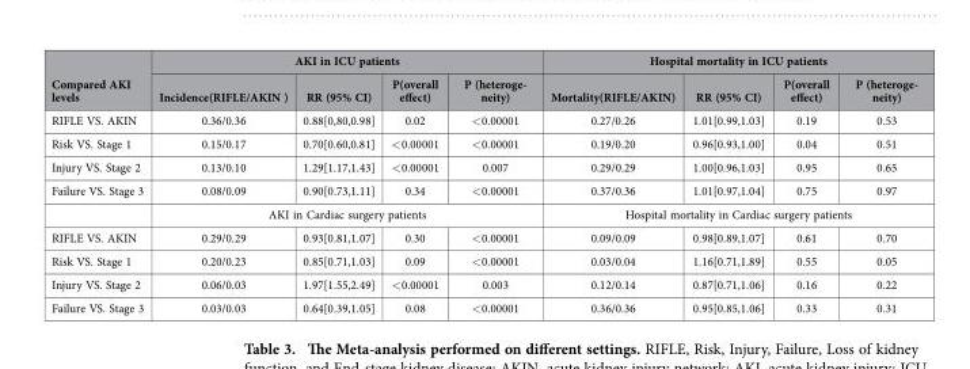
<table><thead><tr><td rowspan="2">Compared AKI levels</td><td colspan="4">AKI in ICU patients</td><td colspan="4">Hospital mortality in ICU patients</td></tr><tr><td>Incidence(RIFLE/AKIN )</td><td>RR (95% CI)</td><td>P(overall effect)</td><td>P (heteroge- neity)</td><td>Mortality(RIFLE/AKIN)</td><td>RR (95% CI)</td><td>P(overall effect)</td><td>P (heteroge- neity)</td></tr></thead><tbody><tr><td>RIFLE VS. AKIN</td><td>0.36/0.36</td><td>0.88[0,80,0.98]</td><td>0.02</td><td>&lt; 0.00001</td><td>0.27/0.26</td><td>1.01[0.99,1.03]</td><td>0.19</td><td>0.53</td></tr><tr><td>Risk VS. Stage 1</td><td>0.15/0.17</td><td>0.70[0.60,0.81]</td><td>&lt; 0.00001</td><td>&lt; 0.00001</td><td>0.19/0.20</td><td>0.96[0.93,1.00]</td><td>0.04</td><td>0.51</td></tr><tr><td>Injury VS. Stage 2</td><td>0.13/0.10</td><td>1.29[1.17,1.43]</td><td>&lt; 0.00001</td><td>0.007</td><td>0.29/0.29</td><td>1.00[0.96,1.03]</td><td>0.95</td><td>0.65</td></tr><tr><td rowspan="2">Failure VS. Stage 3</td><td>0.08/0.09</td><td>0.90[0.73,1.11]</td><td>0.34</td><td>&lt; 0.00001</td><td>0.37/0.36</td><td>1.01[0.97,1.04]</td><td>0.75</td><td>0.97</td></tr><tr><td colspan="4">AKI in Cardiac surgery patients</td><td colspan="4">Hospital mortality in Cardiac surgery patients</td></tr><tr><td>RIFLE VS. AKIN</td><td>0.29/0.29</td><td>0.93[0.81,1.07]</td><td>0.30</td><td>&lt; 0.00001</td><td>0.09/0.09</td><td>0.98[0.89,1.07]</td><td>0.61</td><td>0.70</td></tr><tr><td>Risk VS. Stage 1</td><td>0.20/0.23</td><td>0.85[0.71,1.03]</td><td>0.09</td><td>&lt; 0.00001</td><td>0.03/0.04</td><td>1.16[0.71,1.89]</td><td>0.55</td><td>0.05</td></tr><tr><td>Injury VS. Stage 2</td><td>0.06/0.03</td><td>1.97[1.55,2.49]</td><td>&lt; 0.00001</td><td>0.003</td><td>0.12/0.14</td><td>0.87[0.71,1.06]</td><td>0.16</td><td>0.22</td></tr><tr><td>Failure VS. Stage 3</td><td>0.03/0.03</td><td>0.64[0.39,1.05]</td><td>0.08</td><td>&lt; 0.00001</td><td>0.36/0.36</td><td>0.95[0.85,1.06]</td><td>0.33</td><td>0.31</td></tr></tbody></table>